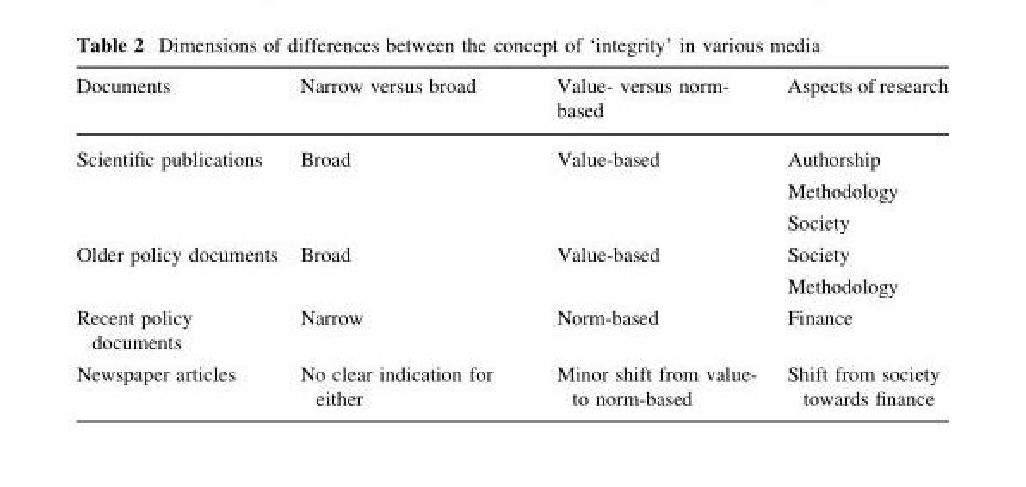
<table><thead><tr><td>Documents</td><td>Narrow versus broad</td><td>Value- versus norm- based</td><td>Aspects of research</td></tr></thead><tbody><tr><td rowspan="3">Scientific publications</td><td rowspan="3">Broad</td><td rowspan="3">Value-based</td><td>Authorship</td></tr><tr><td>Methodology</td></tr><tr><td>Society</td></tr><tr><td rowspan="2">Older policy documents</td><td rowspan="2">Broad</td><td rowspan="2">Value-based</td><td>Society</td></tr><tr><td>Methodology</td></tr><tr><td>Recent policy documents</td><td>Narrow</td><td>Norm-based</td><td>Finance</td></tr><tr><td>Newspaper articles</td><td>No clear indication for either</td><td>Minor shift from value- to norm-based</td><td>Shift from society towards finance</td></tr></tbody></table>